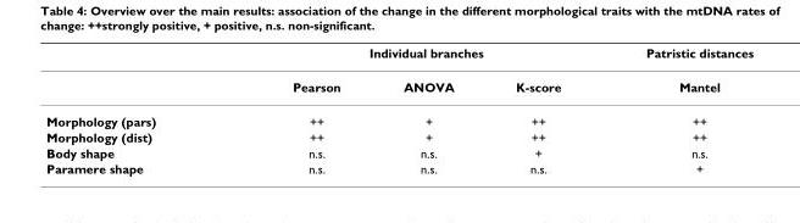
<table><thead><tr><td rowspan="2"></td><td colspan="3">Individual branches</td><td rowspan="2">Patristic distances Mantel</td></tr><tr><td>Pearson</td><td>ANOVA</td><td>K-score</td></tr></thead><tbody><tr><td>Morphology (pars)</td><td>++</td><td>+</td><td>++</td><td>++</td></tr><tr><td>Morphology (dist)</td><td>++</td><td>+</td><td>++</td><td>++</td></tr><tr><td>Body shape</td><td>n.s.</td><td>n.s.</td><td>+</td><td>n.s.</td></tr><tr><td>Paramere shape</td><td>n.s.</td><td>n.s.</td><td>n.s.</td><td>+</td></tr></tbody></table>